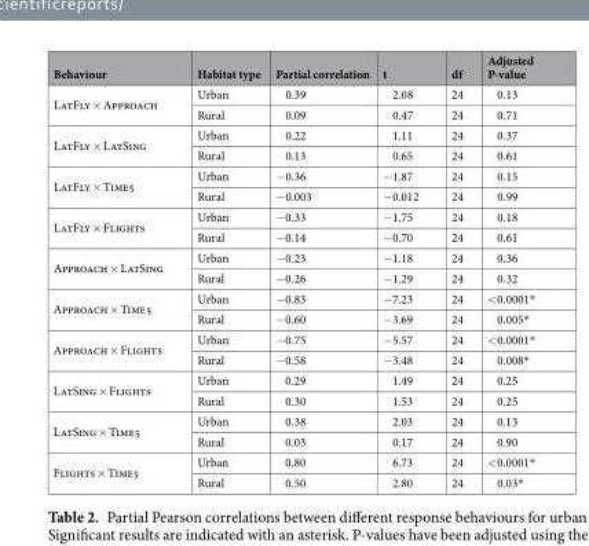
<table><thead><tr><td>Behaviour</td><td>Habitat type</td><td>Partial correlation</td><td>t</td><td>df</td><td>Adjusted P-value</td></tr></thead><tbody><tr><td rowspan="2">LatFly × Approach</td><td>Urban</td><td>0.39</td><td>2.08</td><td>24</td><td>0.13</td></tr><tr><td>Rural</td><td>0.09</td><td>0.47</td><td>24</td><td>0.71</td></tr><tr><td rowspan="2">LatFly × LatSing</td><td>Urban</td><td>0.22</td><td>1.11</td><td>24</td><td>0.37</td></tr><tr><td>Rural</td><td>0.13</td><td>0.65</td><td>24</td><td>0.61</td></tr><tr><td rowspan="2">LatFly × Time5</td><td>Urban</td><td>−0.36</td><td>−1.87</td><td>24</td><td>0.15</td></tr><tr><td>Rural</td><td>−0.003</td><td>−0.012</td><td>24</td><td>0.99</td></tr><tr><td rowspan="2">LatFly × Flights</td><td>Urban</td><td>−0.33</td><td>−1.75</td><td>24</td><td>0.18</td></tr><tr><td>Rural</td><td>−0.14</td><td>−0.70</td><td>24</td><td>0.61</td></tr><tr><td rowspan="2">Approach × LatSing</td><td>Urban</td><td>−0.23</td><td>−1.18</td><td>24</td><td>0.36</td></tr><tr><td>Rural</td><td>−0.26</td><td>−1.29</td><td>24</td><td>0.32</td></tr><tr><td rowspan="2">Approach × Time5</td><td>Urban</td><td>−0.83</td><td>−7.23</td><td>24</td><td>&lt;0.0001*</td></tr><tr><td>Rural</td><td>−0.60</td><td>−3.69</td><td>24</td><td>0.005*</td></tr><tr><td rowspan="2">Approach × Flights</td><td>Urban</td><td>−0.75</td><td>−5.57</td><td>24</td><td>&lt;0.0001*</td></tr><tr><td>Rural</td><td>−0.58</td><td>−3.48</td><td>24</td><td>0.008*</td></tr><tr><td rowspan="2">LatSing × Flights</td><td>Urban</td><td>0.29</td><td>1.49</td><td>24</td><td>0.25</td></tr><tr><td>Rural</td><td>0.30</td><td>1.53</td><td>24</td><td>0.25</td></tr><tr><td rowspan="2">LatSing × Time5</td><td>Urban</td><td>0.38</td><td>2.03</td><td>24</td><td>0.13</td></tr><tr><td>Rural</td><td>0.03</td><td>0.17</td><td>24</td><td>0.90</td></tr><tr><td rowspan="2">Flights × Time5</td><td>Urban</td><td>0.80</td><td>6.73</td><td>24</td><td>&lt;0.0001*</td></tr><tr><td>Rural</td><td>0.50</td><td>2.80</td><td>24</td><td>0.03*</td></tr></tbody></table>